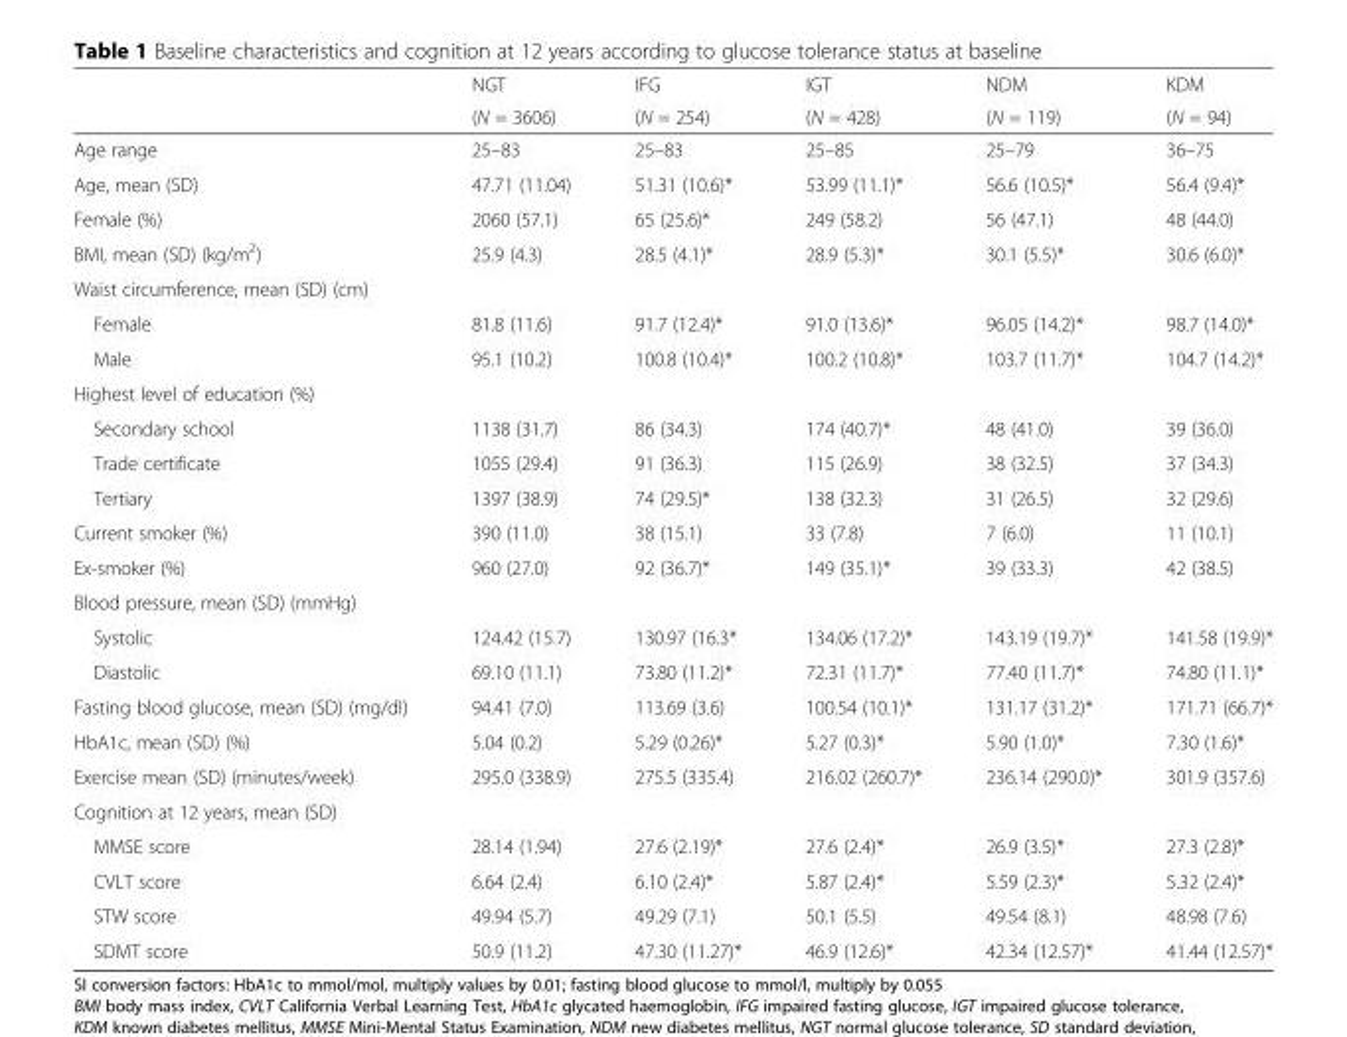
<table><thead><tr><td rowspan="2"></td><td rowspan="2">NGT (N = 3606)</td><td rowspan="2">IFG (N = 254)</td><td rowspan="2">IGT (N = 428)</td><td rowspan="2">NDM (N = 119)</td><td rowspan="2">KDM (N = 94)</td></tr><tr></tr></thead><tbody><tr><td>Age range</td><td>25–83</td><td>25–83</td><td>25–85</td><td>25–79</td><td>36–75</td></tr><tr><td>Age, mean (SD)</td><td>47.71 (11.04)</td><td>51.31 (10.6)*</td><td>53.99 (11.1)*</td><td>56.6 (10.5)*</td><td>56.4 (9.4)*</td></tr><tr><td>Female (%)</td><td>2060 (57.1)</td><td>65 (25.6)*</td><td>249 (58.2)</td><td>56 (47.1)</td><td>48 (44.0)</td></tr><tr><td>BMI, mean (SD) (kg/m<sup>2</sup>)</td><td>25.9 (4.3)</td><td>28.5 (4.1)*</td><td>28.9 (5.3)*</td><td>30.1 (5.5)*</td><td>30.6 (6.0)*</td></tr><tr><td colspan="6">Waist circumference, mean (SD) (cm)</td></tr><tr><td>Female</td><td>81.8 (11.6)</td><td>91.7 (12.4)*</td><td>91.0 (13.6)*</td><td>96.05 (14.2)*</td><td>98.7 (14.0)*</td></tr><tr><td>Male</td><td>95.1 (10.2)</td><td>100.8 (10.4)*</td><td>100.2 (10.8)*</td><td>103.7 (11.7)*</td><td>104.7 (14.2)*</td></tr><tr><td colspan="6">Highest level of education (%)</td></tr><tr><td>Secondary school</td><td>1138 (31.7)</td><td>86 (34.3)</td><td>174 (40.7)*</td><td>48 (41.0)</td><td>39 (36.0)</td></tr><tr><td>Trade certificate</td><td>1055 (29.4)</td><td>91 (36.3)</td><td>115 (26.9)</td><td>38 (32.5)</td><td>37 (34.3)</td></tr><tr><td>Tertiary</td><td>1397 (38.9)</td><td>74 (29.5)*</td><td>138 (32.3)</td><td>31 (26.5)</td><td>32 (29.6)</td></tr><tr><td>Current smoker (%)</td><td>390 (11.0)</td><td>38 (15.1)</td><td>33 (7.8)</td><td>7 (6.0)</td><td>11 (10.1)</td></tr><tr><td>Ex-smoker (%)</td><td>960 (27.0)</td><td>92 (36.7)*</td><td>149 (35.1)*</td><td>39 (33.3)</td><td>42 (38.5)</td></tr><tr><td colspan="6">Blood pressure, mean (SD) (mmHg)</td></tr><tr><td>Systolic</td><td>124.42 (15.7)</td><td>130.97 (16.3*</td><td>134.06 (17.2)*</td><td>143.19 (19.7)*</td><td>141.58 (19.9)*</td></tr><tr><td>Diastolic</td><td>69.10 (11.1)</td><td>73.80 (11.2)*</td><td>72.31 (11.7)*</td><td>77.40 (11.7)*</td><td>74.80 (11.1)*</td></tr><tr><td>Fasting blood glucose, mean (SD) (mg/dl)</td><td>94.41 (7.0)</td><td>113.69 (3.6)</td><td>100.54 (10.1)*</td><td>131.17 (31.2)*</td><td>171.71 (66.7)*</td></tr><tr><td>HbA1c, mean (SD) (%)</td><td>5.04 (0.2)</td><td>5.29 (0.26)*</td><td>5.27 (0.3)*</td><td>5.90 (1.0)*</td><td>7.30 (1.6)*</td></tr><tr><td>Exercise mean (SD) (minutes/week)</td><td>295.0 (338.9)</td><td>275.5 (335.4)</td><td>216.02 (260.7)*</td><td>236.14 (290.0)*</td><td>301.9 (357.6)</td></tr><tr><td colspan="6">Cognition at 12 years, mean (SD)</td></tr><tr><td>MMSE score</td><td>28.14 (1.94)</td><td>27.6 (2.19)*</td><td>27.6 (2.4)*</td><td>26.9 (3.5)*</td><td>27.3 (2.8)*</td></tr><tr><td>CVLT score</td><td>6.64 (2.4)</td><td>6.10 (2.4)*</td><td>5.87 (2.4)*</td><td>5.59 (2.3)*</td><td>5.32 (2.4)*</td></tr><tr><td>STW score</td><td>49.94 (5.7)</td><td>49.29 (7.1)</td><td>50.1 (5.5)</td><td>49.54 (8.1)</td><td>48.98 (7.6)</td></tr><tr><td>SDMT score</td><td>50.9 (11.2)</td><td>47.30 (11.27)*</td><td>46.9 (12.6)*</td><td>42.34 (12.57)*</td><td>41.44 (12.57)*</td></tr></tbody></table>